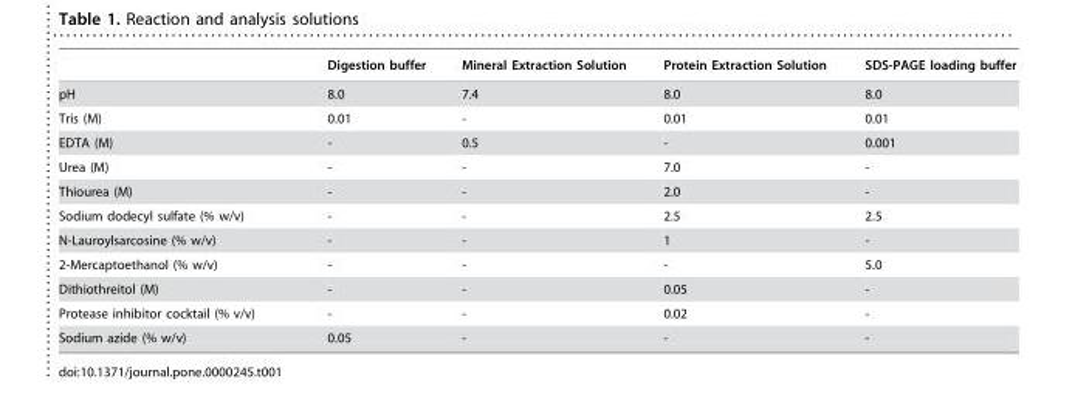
<table><thead><tr><td></td><td>Digestion buffer</td><td>Mineral Extraction Solution</td><td>Protein Extraction Solution</td><td>SDS-PAGE loading buffer</td></tr></thead><tbody><tr><td>pH</td><td>8.0</td><td>7.4</td><td>8.0</td><td>8.0</td></tr><tr><td>Tris (M)</td><td>0.01</td><td>-</td><td>0.01</td><td>0.01</td></tr><tr><td>EDTA (M)</td><td>-</td><td>0.5</td><td>-</td><td>0.001</td></tr><tr><td>Urea (M)</td><td>-</td><td>-</td><td>7.0</td><td>-</td></tr><tr><td>Thiourea (M)</td><td>-</td><td>-</td><td>2.0</td><td>-</td></tr><tr><td>Sodium dodecyl sulfate (% w/v)</td><td>-</td><td>-</td><td>2.5</td><td>2.5</td></tr><tr><td>N-Lauroylsarcosine (% w/v)</td><td>-</td><td>-</td><td>1</td><td>-</td></tr><tr><td>2-Mercaptoethanol (% w/v)</td><td>-</td><td>-</td><td>-</td><td>5.0</td></tr><tr><td>Dithiothreitol (M)</td><td>-</td><td>-</td><td>0.05</td><td>-</td></tr><tr><td>Protease inhibitor cocktail (% v/v)</td><td>-</td><td>-</td><td>0.02</td><td>-</td></tr><tr><td>Sodium azide (% w/v)</td><td>0.05</td><td>-</td><td>-</td><td>-</td></tr></tbody></table>